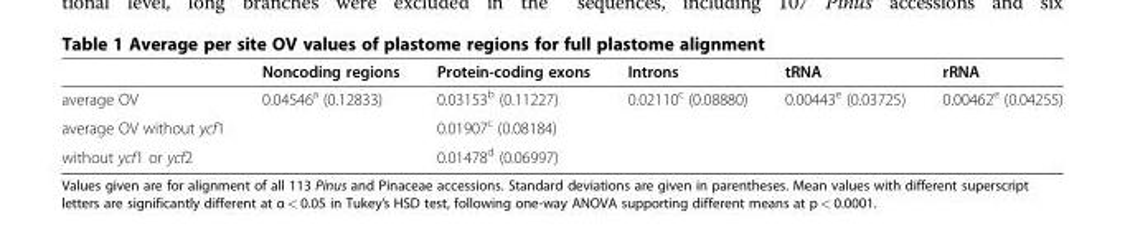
<table><thead><tr><td></td><td>Noncoding regions</td><td>Protein-coding exons</td><td>Introns</td><td>tRNA</td><td>rRNA</td></tr></thead><tbody><tr><td>average OV</td><td>0.04546<sup>a</sup> (0.12833)</td><td>0.03153<sup>b</sup> (0.11227)</td><td>0.02110<sup>c</sup> (0.08880)</td><td>0.00443<sup>e</sup> (0.03725)</td><td>0.00462<sup>e</sup> (0.04255)</td></tr><tr><td>average OV without ycf1</td><td></td><td>0.01907<sup>c</sup> (0.08184)</td><td></td><td></td><td></td></tr><tr><td>without ycf1 or ycf2</td><td></td><td>0.01478<sup>d</sup> (0.06997)</td><td></td><td></td><td></td></tr></tbody></table>